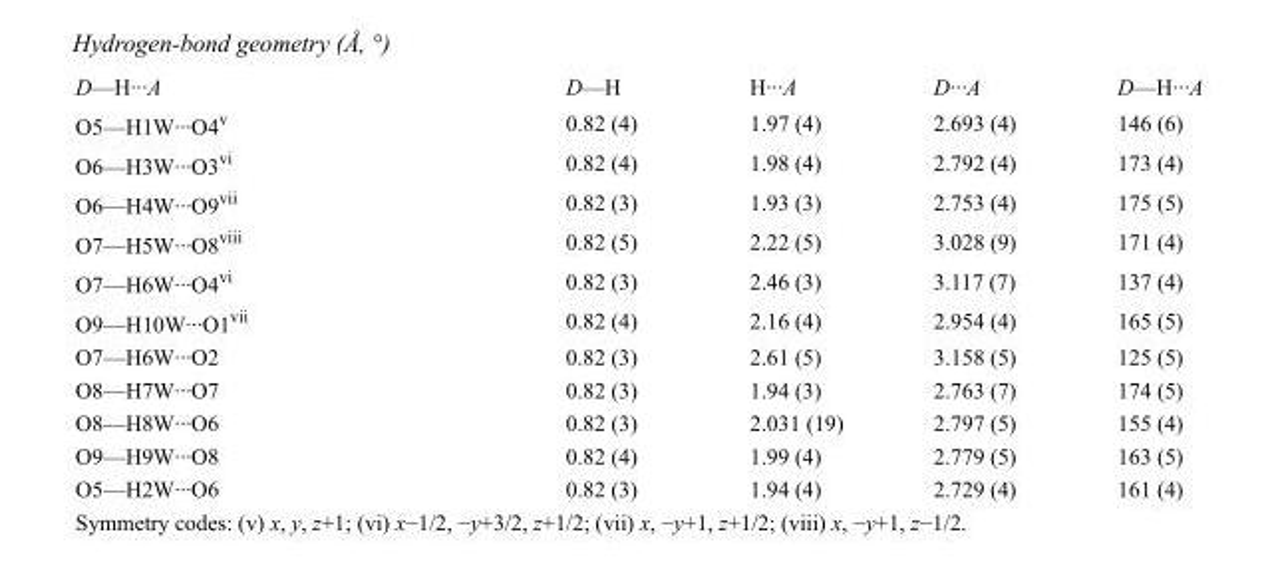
<table><tbody><tr><td>D—H···A</td><td>D—H</td><td>H···A</td><td>D···A</td><td>D—H···A</td></tr><tr><td>O5—H1W···O4<sup>v</sup></td><td>0.82 (4)</td><td>1.97 (4)</td><td>2.693 (4)</td><td>146 (6)</td></tr><tr><td>O6—H3W···O3<sup>vi</sup></td><td>0.82 (4)</td><td>1.98 (4)</td><td>2.792 (4)</td><td>173 (4)</td></tr><tr><td>O6—H4W···O9<sup>vii</sup></td><td>0.82 (3)</td><td>1.93 (3)</td><td>2.753 (4)</td><td>175 (5)</td></tr><tr><td>O7—H5W···O8<sup>viii</sup></td><td>0.82 (5)</td><td>2.22 (5)</td><td>3.028 (9)</td><td>171 (4)</td></tr><tr><td>O7—H6W···O4<sup>vi</sup></td><td>0.82 (3)</td><td>2.46 (3)</td><td>3.117 (7)</td><td>137 (4)</td></tr><tr><td>O9—H10W···O1<sup>vii</sup></td><td>0.82 (4)</td><td>2.16 (4)</td><td>2.954 (4)</td><td>165 (5)</td></tr><tr><td>O7—H6W···O2</td><td>0.82 (3)</td><td>2.61 (5)</td><td>3.158 (5)</td><td>125 (5)</td></tr><tr><td>O8—H7W···O7</td><td>0.82 (3)</td><td>1.94 (3)</td><td>2.763 (7)</td><td>174 (5)</td></tr><tr><td>O8—H8W···O6</td><td>0.82 (3)</td><td>2.031 (19)</td><td>2.797 (5)</td><td>155 (4)</td></tr><tr><td>O9—H9W···O8</td><td>0.82 (4)</td><td>1.99 (4)</td><td>2.779 (5)</td><td>163 (5)</td></tr><tr><td>O5—H2W···O6</td><td>0.82 (3)</td><td>1.94 (4)</td><td>2.729 (4)</td><td>161 (4)</td></tr></tbody></table>